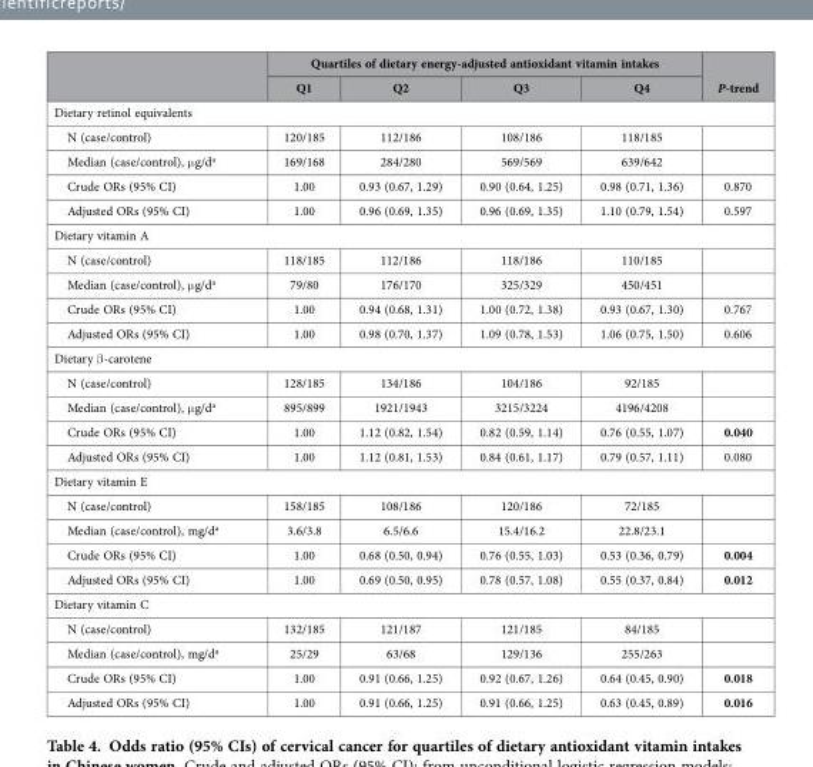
<table><thead><tr><td rowspan="2"></td><td colspan="4">Quartiles of dietary energy-adjusted antioxidant vitamin intakes</td><td rowspan="2">P-trend</td></tr><tr><td>Q1</td><td>Q2</td><td>Q3</td><td>Q4</td></tr></thead><tbody><tr><td colspan="6">Dietary retinol equivalents</td></tr><tr><td>N (case/control)</td><td>120/185</td><td>112/186</td><td>108/186</td><td>118/185</td><td></td></tr><tr><td>Median (case/control), μ g/d<sup>a</sup></td><td>169/168</td><td>284/280</td><td>569/569</td><td>639/642</td><td></td></tr><tr><td>Crude ORs (95% CI)</td><td>1.00</td><td>0.93 (0.67, 1.29)</td><td>0.90 (0.64, 1.25)</td><td>0.98 (0.71, 1.36)</td><td>0.870</td></tr><tr><td>Adjusted ORs (95% CI)</td><td>1.00</td><td>0.96 (0.69, 1.35)</td><td>0.96 (0.69, 1.35)</td><td>1.10 (0.79, 1.54)</td><td>0.597</td></tr><tr><td colspan="6">Dietary vitamin A</td></tr><tr><td>N (case/control)</td><td>118/185</td><td>112/186</td><td>118/186</td><td>110/185</td><td></td></tr><tr><td>Median (case/control), μ g/d<sup>a</sup></td><td>79/80</td><td>176/170</td><td>325/329</td><td>450/451</td><td></td></tr><tr><td>Crude ORs (95% CI)</td><td>1.00</td><td>0.94 (0.68, 1.31)</td><td>1.00 (0.72, 1.38)</td><td>0.93 (0.67, 1.30)</td><td>0.767</td></tr><tr><td>Adjusted ORs (95% CI)</td><td>1.00</td><td>0.98 (0.70, 1.37)</td><td>1.09 (0.78, 1.53)</td><td>1.06 (0.75, 1.50)</td><td>0.606</td></tr><tr><td colspan="6">Dietary β -carotene</td></tr><tr><td>N (case/control)</td><td>128/185</td><td>134/186</td><td>104/186</td><td>92/185</td><td></td></tr><tr><td>Median (case/control), μ g/d<sup>a</sup></td><td>895/899</td><td>1921/1943</td><td>3215/3224</td><td>4196/4208</td><td></td></tr><tr><td>Crude ORs (95% CI)</td><td>1.00</td><td>1.12 (0.82, 1.54)</td><td>0.82 (0.59, 1.14)</td><td>0.76 (0.55, 1.07)</td><td>0.040</td></tr><tr><td>Adjusted ORs (95% CI)</td><td>1.00</td><td>1.12 (0.81, 1.53)</td><td>0.84 (0.61, 1.17)</td><td>0.79 (0.57, 1.11)</td><td>0.080</td></tr><tr><td colspan="6">Dietary vitamin E</td></tr><tr><td>N (case/control)</td><td>158/185</td><td>108/186</td><td>120/186</td><td>72/185</td><td></td></tr><tr><td>Median (case/control), mg/d<sup>a</sup></td><td>3.6/3.8</td><td>6.5/6.6</td><td>15.4/16.2</td><td>22.8/23.1</td><td></td></tr><tr><td>Crude ORs (95% CI)</td><td>1.00</td><td>0.68 (0.50, 0.94)</td><td>0.76 (0.55, 1.03)</td><td>0.53 (0.36, 0.79)</td><td>0.004</td></tr><tr><td>Adjusted ORs (95% CI)</td><td>1.00</td><td>0.69 (0.50, 0.95)</td><td>0.78 (0.57, 1.08)</td><td>0.55 (0.37, 0.84)</td><td>0.012</td></tr><tr><td colspan="6">Dietary vitamin C</td></tr><tr><td>N (case/control)</td><td>132/185</td><td>121/187</td><td>121/185</td><td>84/185</td><td></td></tr><tr><td>Median (case/control), mg/d<sup>a</sup></td><td>25/29</td><td>63/68</td><td>129/136</td><td>255/263</td><td></td></tr><tr><td>Crude ORs (95% CI)</td><td>1.00</td><td>0.91 (0.66, 1.25)</td><td>0.92 (0.67, 1.26)</td><td>0.64 (0.45, 0.90)</td><td>0.018</td></tr><tr><td>Adjusted ORs (95% CI)</td><td>1.00</td><td>0.91 (0.66, 1.25)</td><td>0.91 (0.66, 1.25)</td><td>0.63 (0.45, 0.89)</td><td>0.016</td></tr></tbody></table>